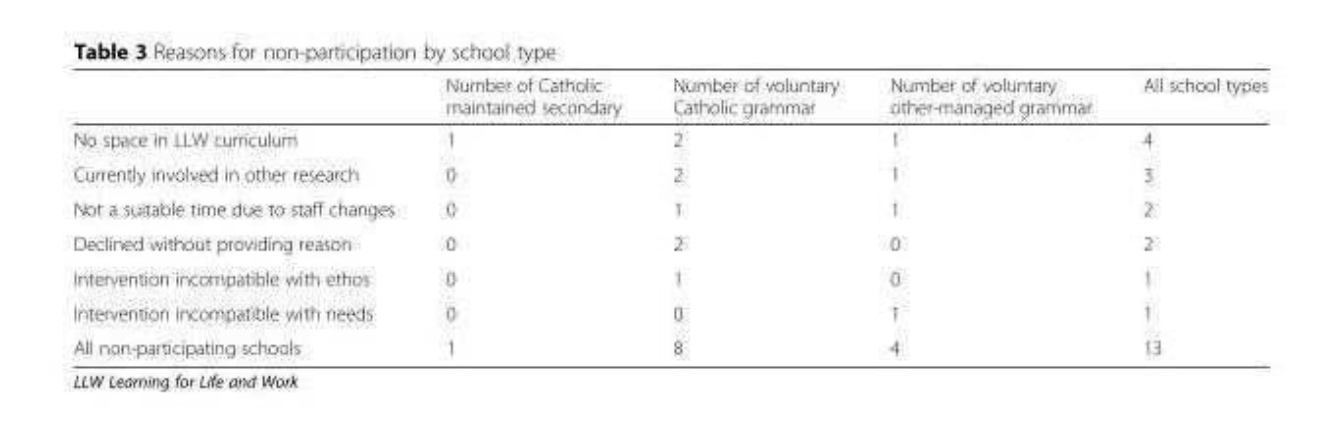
<table><thead><tr><td></td><td>Number of Catholic maintained secondary</td><td>Number of voluntary Catholic grammar</td><td>Number of voluntary other-managed grammar</td><td>All school types</td></tr></thead><tbody><tr><td>No space in LLW curriculum</td><td>1</td><td>2</td><td>1</td><td>4</td></tr><tr><td>Currently involved in other research</td><td>0</td><td>2</td><td>1</td><td>3</td></tr><tr><td>Not a suitable time due to staff changes</td><td>0</td><td>1</td><td>1</td><td>2</td></tr><tr><td>Declined without providing reason</td><td>0</td><td>2</td><td>0</td><td>2</td></tr><tr><td>Intervention incompatible with ethos</td><td>0</td><td>1</td><td>0</td><td>1</td></tr><tr><td>Intervention incompatible with needs</td><td>0</td><td>0</td><td>1</td><td>1</td></tr><tr><td>All non-participating schools</td><td>1</td><td>8</td><td>4</td><td>13</td></tr></tbody></table>